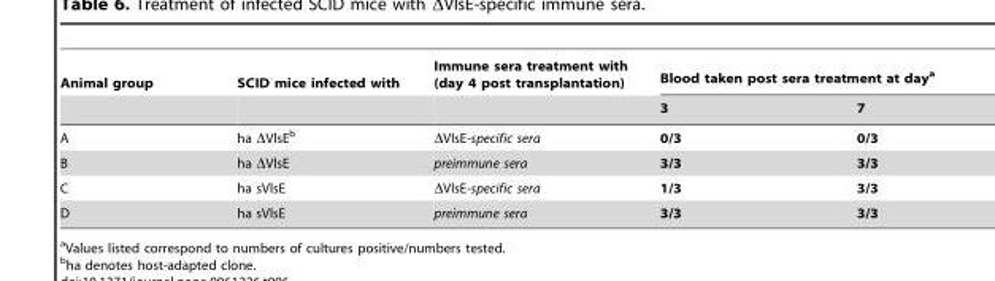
<table><thead><tr><td rowspan="2">Animal group</td><td rowspan="2">SCID mice infected with</td><td rowspan="2">Immune sera treatment with (day 4 post transplantation)</td><td colspan="2">Blood taken post sera treatment at day<sup>a</sup></td></tr><tr><td>3</td><td>7</td></tr></thead><tbody><tr><td>A</td><td>ha ΔVlsE<sup>b</sup></td><td>ΔVlsE-specific sera</td><td>0/3</td><td>0/3</td></tr><tr><td>B</td><td>ha ΔVlsE</td><td>preimmune sera</td><td>3/3</td><td>3/3</td></tr><tr><td>C</td><td>ha sVlsE</td><td>ΔVlsE-specific sera</td><td>1/3</td><td>3/3</td></tr><tr><td>D</td><td>ha sVlsE</td><td>preimmune sera</td><td>3/3</td><td>3/3</td></tr></tbody></table>